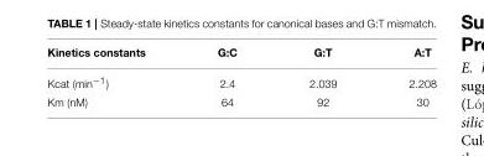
<table><thead><tr><td>Kinetics constants</td><td>G:C</td><td>G:T</td><td>A:T</td></tr></thead><tbody><tr><td>Kcat (min<sup>−1</sup>)</td><td>2.4</td><td>2.039</td><td>2.208</td></tr><tr><td>Km (nM)</td><td>64</td><td>92</td><td>30</td></tr></tbody></table>